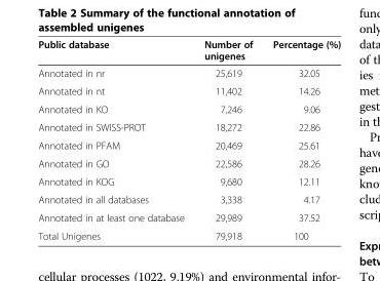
<table><thead><tr><td>Public database</td><td>Number of unigenes</td><td>Percentage (%)</td></tr></thead><tbody><tr><td>Annotated in nr</td><td>25,619</td><td>32.05</td></tr><tr><td>Annotated in nt</td><td>11,402</td><td>14.26</td></tr><tr><td>Annotated in KO</td><td>7,246</td><td>9.06</td></tr><tr><td>Annotated in SWISS-PROT</td><td>18,272</td><td>22.86</td></tr><tr><td>Annotated in PFAM</td><td>20,469</td><td>25.61</td></tr><tr><td>Annotated in GO</td><td>22,586</td><td>28.26</td></tr><tr><td>Annotated in KOG</td><td>9,680</td><td>12.11</td></tr><tr><td>Annotated in all databases</td><td>3,338</td><td>4.17</td></tr><tr><td>Annotated in at least one database</td><td>29,989</td><td>37.52</td></tr><tr><td>Total Unigenes</td><td>79,918</td><td>100</td></tr></tbody></table>